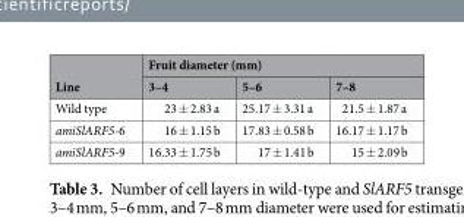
<table><thead><tr><td rowspan="2">Line</td><td colspan="3">Fruit diameter (mm)</td></tr><tr><td>3–4</td><td>5–6</td><td>7–8</td></tr></thead><tbody><tr><td>Wild type</td><td>23 ± 2.83 a</td><td>25.17 ± 3.31 a</td><td>21.5 ± 1.87 a</td></tr><tr><td>amiSlARF5-6</td><td>16 ± 1.15 b</td><td>17.83 ± 0.58 b</td><td>16.17 ± 1.17 b</td></tr><tr><td>amiSlARF5-9</td><td>16.33 ± 1.75 b</td><td>17 ± 1.41 b</td><td>15 ± 2.09 b</td></tr></tbody></table>